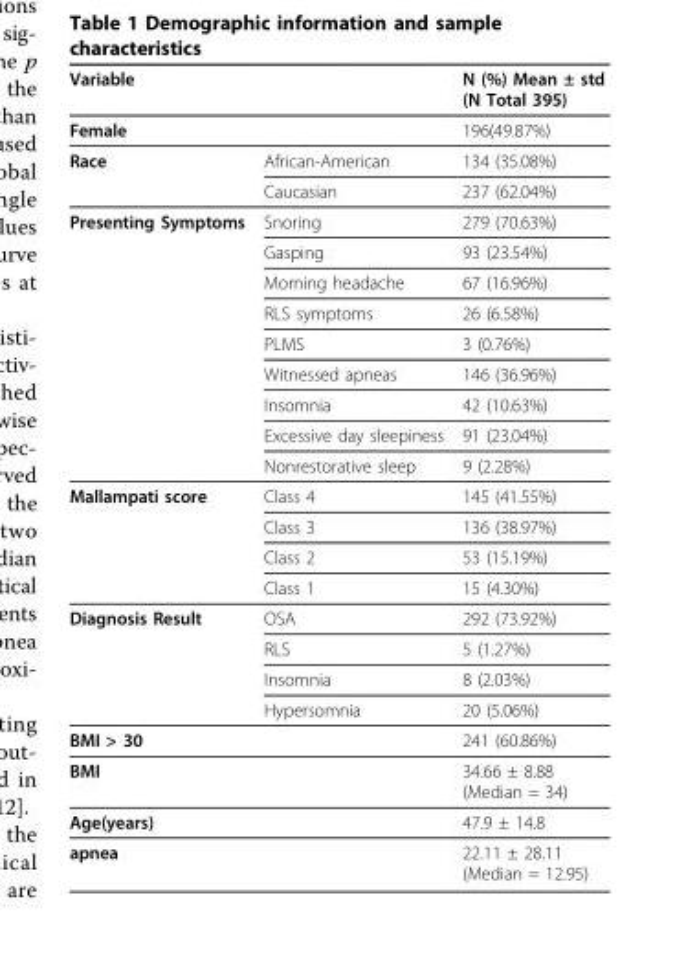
<table><thead><tr><td rowspan="2" colspan="2">Variable Female</td><td rowspan="3">N (%) Mean ± std (N Total 395) 196(49.87%) 134 (35.08%)</td></tr><tr></tr><tr><td>Race</td><td>African-American</td></tr></thead><tbody><tr><td></td><td>Caucasian</td><td>237 (62.04%)</td></tr><tr><td rowspan="9">Presenting Symptoms</td><td>Snoring</td><td>279 (70.63%)</td></tr><tr><td>Gasping</td><td>93 (23.54%)</td></tr><tr><td>Morning headache</td><td>67 (16.96%)</td></tr><tr><td>RLS symptoms</td><td>26 (6.58%)</td></tr><tr><td>PLMS</td><td>3 (0.76%)</td></tr><tr><td>Witnessed apneas</td><td>146 (36.96%)</td></tr><tr><td>Insomnia</td><td>42 (10.63%)</td></tr><tr><td>Excessive day sleepiness</td><td>91 (23.04%)</td></tr><tr><td>Nonrestorative sleep</td><td>9 (2.28%)</td></tr><tr><td rowspan="4">Mallampati score</td><td>Class 4</td><td>145 (41.55%)</td></tr><tr><td>Class 3</td><td>136 (38.97%)</td></tr><tr><td>Class 2</td><td>53 (15.19%)</td></tr><tr><td>Class 1</td><td>15 (4.30%)</td></tr><tr><td rowspan="4">Diagnosis Result</td><td>OSA</td><td>292 (73.92%)</td></tr><tr><td>RLS</td><td>5 (1.27%)</td></tr><tr><td>Insomnia</td><td>8 (2.03%)</td></tr><tr><td>Hypersomnia</td><td>20 (5.06%)</td></tr><tr><td colspan="2">BMI &gt; 30</td><td>241 (60.86%)</td></tr><tr><td>BMI</td><td></td><td>34.66 ± 8.88 (Median = 34)</td></tr><tr><td>Age(years)</td><td></td><td>47.9 ± 14.8</td></tr><tr><td colspan="2">apnea</td><td>22.11 ± 28.11 (Median = 12.95)</td></tr></tbody></table>